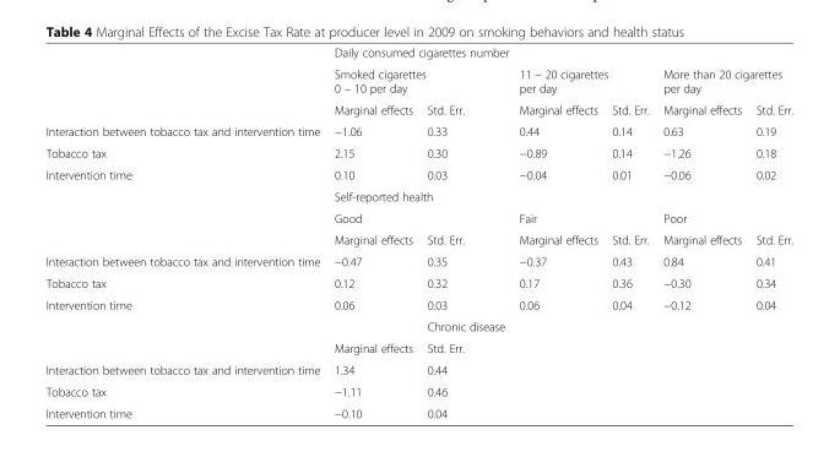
<table><thead><tr><td rowspan="3"></td><td colspan="6">Daily consumed cigarettes number</td></tr><tr><td colspan="2">Smoked cigarettes 0 – 10 per day</td><td colspan="2">11 – 20 cigarettes per day</td><td colspan="2">More than 20 cigarettes per day</td></tr><tr><td>Marginal effects</td><td>Std. Err.</td><td>Marginal effects</td><td>Std. Err.</td><td>Marginal effects</td><td>Std. Err.</td></tr></thead><tbody><tr><td>Interaction between tobacco tax and intervention time</td><td>−1.06</td><td>0.33</td><td>0.44</td><td>0.14</td><td>0.63</td><td>0.19</td></tr><tr><td>Tobacco tax</td><td>2.15</td><td>0.30</td><td>−0.89</td><td>0.14</td><td>−1.26</td><td>0.18</td></tr><tr><td rowspan="4">Intervention time</td><td>0.10</td><td>0.03</td><td>−0.04</td><td>0.01</td><td>−0.06</td><td>0.02</td></tr><tr><td colspan="6">Self-reported health</td></tr><tr><td colspan="2">Good</td><td colspan="2">Fair</td><td colspan="2">Poor</td></tr><tr><td>Marginal effects</td><td>Std. Err.</td><td>Marginal effects</td><td>Std. Err.</td><td>Marginal effects</td><td>Std. Err.</td></tr><tr><td>Interaction between tobacco tax and intervention time</td><td>−0.47</td><td>0.35</td><td>−0.37</td><td>0.43</td><td>0.84</td><td>0.41</td></tr><tr><td>Tobacco tax</td><td>0.12</td><td>0.32</td><td>0.17</td><td>0.36</td><td>−0.30</td><td>0.34</td></tr><tr><td rowspan="3">Intervention time</td><td>0.06</td><td>0.03</td><td>0.06</td><td>0.04</td><td>−0.12</td><td>0.04</td></tr><tr><td></td><td>Chronic disease</td><td></td><td></td><td></td><td></td></tr><tr><td>Marginal effects</td><td>Std. Err.</td><td></td><td></td><td></td><td></td></tr><tr><td>Interaction between tobacco tax and intervention time</td><td>1.34</td><td>0.44</td><td></td><td></td><td></td><td></td></tr><tr><td>Tobacco tax</td><td>−1.11</td><td>0.46</td><td></td><td></td><td></td><td></td></tr><tr><td>Intervention time</td><td>−0.10</td><td>0.04</td><td></td><td></td><td></td><td></td></tr></tbody></table>